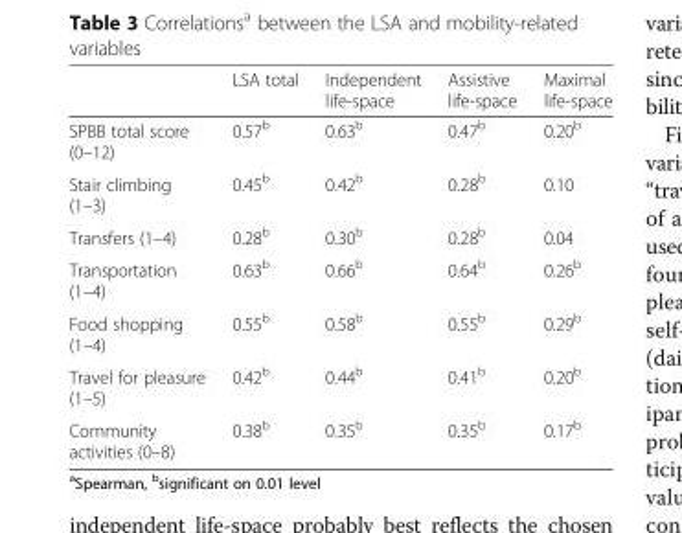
<table><thead><tr><td></td><td>LSA total</td><td>Independent life-space</td><td>Assistive life-space</td><td>Maximal life-space</td></tr></thead><tbody><tr><td>SPBB total score (0–12)</td><td>0.57<sup>b</sup></td><td>0.63<sup>b</sup></td><td>0.47<sup>b</sup></td><td>0.20<sup>b</sup></td></tr><tr><td>Stair climbing (1–3)</td><td>0.45<sup>b</sup></td><td>0.42<sup>b</sup></td><td>0.28<sup>b</sup></td><td>0.10</td></tr><tr><td>Transfers (1–4)</td><td>0.28<sup>b</sup></td><td>0.30<sup>b</sup></td><td>0.28<sup>b</sup></td><td>0.04</td></tr><tr><td>Transportation (1–4)</td><td>0.63<sup>b</sup></td><td>0.66<sup>b</sup></td><td>0.64<sup>b</sup></td><td>0.26<sup>b</sup></td></tr><tr><td>Food shopping (1–4)</td><td>0.55<sup>b</sup></td><td>0.58<sup>b</sup></td><td>0.55<sup>b</sup></td><td>0.29<sup>b</sup></td></tr><tr><td>Travel for pleasure (1–5)</td><td>0.42<sup>b</sup></td><td>0.44<sup>b</sup></td><td>0.41<sup>b</sup></td><td>0.20<sup>b</sup></td></tr><tr><td>Community activities (0–8)</td><td>0.38<sup>b</sup></td><td>0.35<sup>b</sup></td><td>0.35<sup>b</sup></td><td>0.17<sup>b</sup></td></tr></tbody></table>